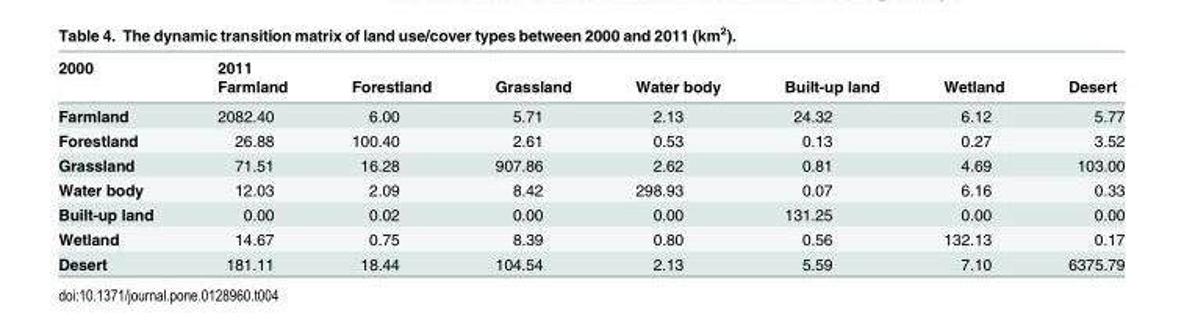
<table><thead><tr><td rowspan="2">2000</td><td rowspan="2">2011 Farmland</td><td rowspan="2">Forestland</td><td rowspan="2">Grassland</td><td rowspan="2">Water body</td><td rowspan="2">Built-up land</td><td rowspan="2">Wetland</td><td rowspan="2">Desert</td></tr><tr></tr></thead><tbody><tr><td>Farmland</td><td>2082.40</td><td>6.00</td><td>5.71</td><td>2.13</td><td>24.32</td><td>6.12</td><td>5.77</td></tr><tr><td>Forestland</td><td>26.88</td><td>100.40</td><td>2.61</td><td>0.53</td><td>0.13</td><td>0.27</td><td>3.52</td></tr><tr><td>Grassland</td><td>71.51</td><td>16.28</td><td>907.86</td><td>2.62</td><td>0.81</td><td>4.69</td><td>103.00</td></tr><tr><td>Water body</td><td>12.03</td><td>2.09</td><td>8.42</td><td>298.93</td><td>0.07</td><td>6.16</td><td>0.33</td></tr><tr><td>Built-up land</td><td>0.00</td><td>0.02</td><td>0.00</td><td>0.00</td><td>131.25</td><td>0.00</td><td>0.00</td></tr><tr><td>Wetland</td><td>14.67</td><td>0.75</td><td>8.39</td><td>0.80</td><td>0.56</td><td>132.13</td><td>0.17</td></tr><tr><td>Desert</td><td>181.11</td><td>18.44</td><td>104.54</td><td>2.13</td><td>5.59</td><td>7.10</td><td>6375.79</td></tr></tbody></table>